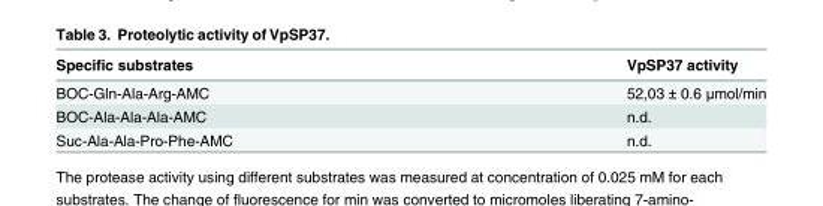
<table><thead><tr><td>Specific substrates</td><td>VpSP37 activity</td></tr></thead><tbody><tr><td>BOC-Gln-Ala-Arg-AMC</td><td>52,03 ± 0.6 μmol/min</td></tr><tr><td>BOC-Ala-Ala-Ala-AMC</td><td>n.d.</td></tr><tr><td>Suc-Ala-Ala-Pro-Phe-AMC</td><td>n.d.</td></tr></tbody></table>